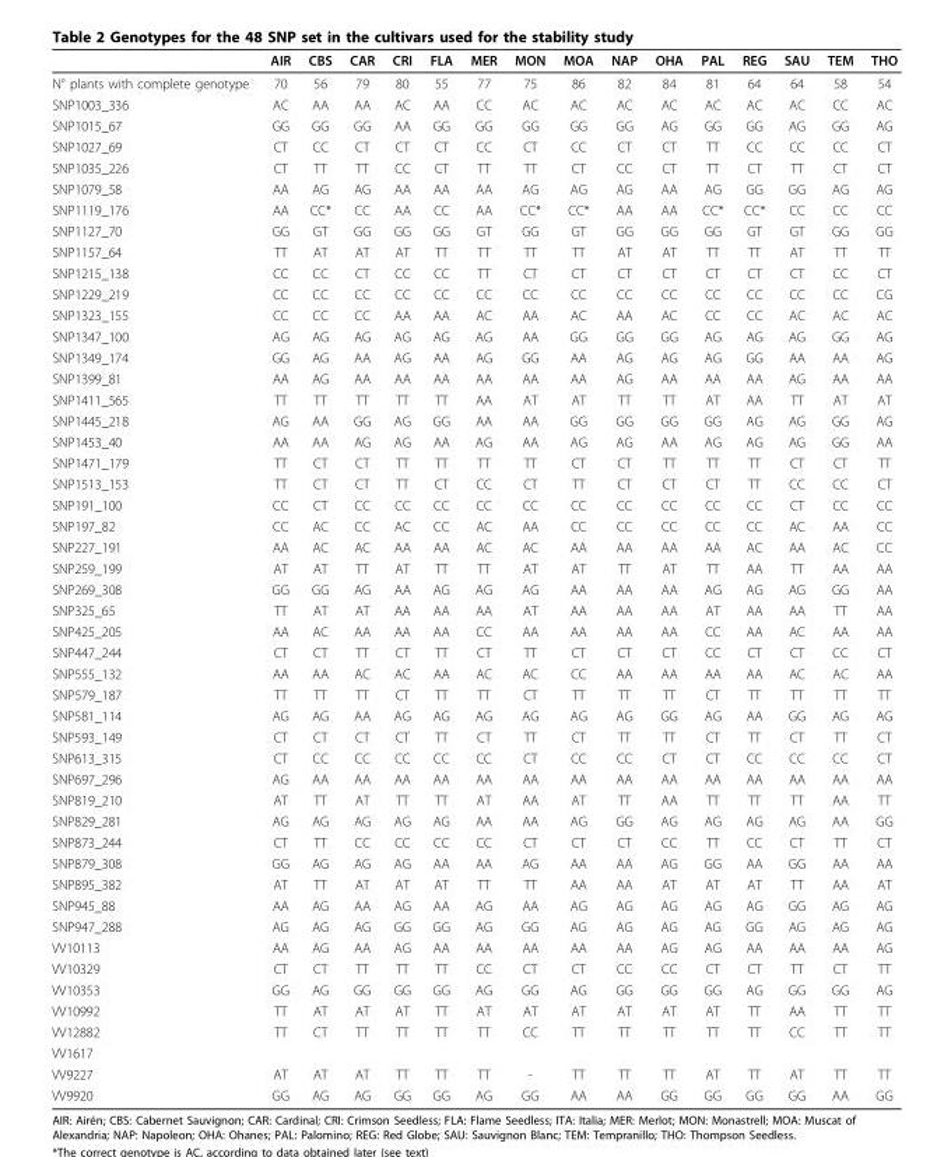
<table><thead><tr><td></td><td>AIR</td><td>CBS</td><td>CAR</td><td>CRI</td><td>FLA</td><td>MER</td><td>MON</td><td>MOA</td><td>NAP</td><td>OHA</td><td>PAL</td><td>REG</td><td>SAU</td><td>TEM</td><td>THO</td></tr></thead><tbody><tr><td>N° plants with complete genotype</td><td>70</td><td>56</td><td>79</td><td>80</td><td>55</td><td>77</td><td>75</td><td>86</td><td>82</td><td>84</td><td>81</td><td>64</td><td>64</td><td>58</td><td>54</td></tr><tr><td>SNP1003_336</td><td>AC</td><td>AA</td><td>AA</td><td>AC</td><td>AA</td><td>CC</td><td>AC</td><td>AC</td><td>AC</td><td>AC</td><td>AC</td><td>AC</td><td>AC</td><td>CC</td><td>AC</td></tr><tr><td>SNP1015_67</td><td>GG</td><td>GG</td><td>GG</td><td>AA</td><td>GG</td><td>GG</td><td>GG</td><td>GG</td><td>GG</td><td>AG</td><td>GG</td><td>GG</td><td>AG</td><td>GG</td><td>AG</td></tr><tr><td>SNP1027_69</td><td>CT</td><td>CC</td><td>CT</td><td>CT</td><td>CT</td><td>CC</td><td>CT</td><td>CC</td><td>CT</td><td>CT</td><td>TT</td><td>CC</td><td>CC</td><td>CC</td><td>CT</td></tr><tr><td>SNP1035_226</td><td>CT</td><td>TT</td><td>TT</td><td>CC</td><td>CT</td><td>TT</td><td>TT</td><td>CT</td><td>CC</td><td>CT</td><td>TT</td><td>CT</td><td>TT</td><td>CT</td><td>CT</td></tr><tr><td>SNP1079_58</td><td>AA</td><td>AG</td><td>AG</td><td>AA</td><td>AA</td><td>AA</td><td>AG</td><td>AG</td><td>AG</td><td>AA</td><td>AG</td><td>GG</td><td>GG</td><td>AG</td><td>AG</td></tr><tr><td>SNP1119_176</td><td>AA</td><td>CC*</td><td>CC</td><td>AA</td><td>CC</td><td>AA</td><td>CC*</td><td>CC*</td><td>AA</td><td>AA</td><td>CC*</td><td>CC*</td><td>CC</td><td>CC</td><td>CC</td></tr><tr><td>SNP1127_70</td><td>GG</td><td>GT</td><td>GG</td><td>GG</td><td>GG</td><td>GT</td><td>GG</td><td>GT</td><td>GG</td><td>GG</td><td>GG</td><td>GT</td><td>GT</td><td>GG</td><td>GG</td></tr><tr><td>SNP1157_64</td><td>TT</td><td>AT</td><td>AT</td><td>AT</td><td>TT</td><td>TT</td><td>TT</td><td>TT</td><td>AT</td><td>AT</td><td>TT</td><td>TT</td><td>AT</td><td>TT</td><td>TT</td></tr><tr><td>SNP1215_138</td><td>CC</td><td>CC</td><td>CT</td><td>CC</td><td>CC</td><td>TT</td><td>CT</td><td>CT</td><td>CT</td><td>CT</td><td>CT</td><td>CT</td><td>CT</td><td>CC</td><td>CT</td></tr><tr><td>SNP1229_219</td><td>CC</td><td>CC</td><td>CC</td><td>CC</td><td>CC</td><td>CC</td><td>CC</td><td>CC</td><td>CC</td><td>CC</td><td>CC</td><td>CC</td><td>CC</td><td>CC</td><td>CG</td></tr><tr><td>SNP1323_155</td><td>CC</td><td>CC</td><td>CC</td><td>AA</td><td>AA</td><td>AC</td><td>AA</td><td>AC</td><td>AA</td><td>AC</td><td>CC</td><td>CC</td><td>AC</td><td>AC</td><td>AC</td></tr><tr><td>SNP1347_100</td><td>AG</td><td>AG</td><td>AG</td><td>AG</td><td>AG</td><td>AG</td><td>AA</td><td>GG</td><td>GG</td><td>GG</td><td>AG</td><td>AG</td><td>AG</td><td>GG</td><td>AG</td></tr><tr><td>SNP1349_174</td><td>GG</td><td>AG</td><td>AA</td><td>AG</td><td>AA</td><td>AG</td><td>GG</td><td>AA</td><td>AG</td><td>AG</td><td>AG</td><td>GG</td><td>AA</td><td>AA</td><td>AG</td></tr><tr><td>SNP1399_81</td><td>AA</td><td>AG</td><td>AA</td><td>AA</td><td>AA</td><td>AA</td><td>AA</td><td>AA</td><td>AG</td><td>AA</td><td>AA</td><td>AA</td><td>AG</td><td>AA</td><td>AA</td></tr><tr><td>SNP1411_565</td><td>TT</td><td>TT</td><td>TT</td><td>TT</td><td>TT</td><td>AA</td><td>AT</td><td>AT</td><td>TT</td><td>TT</td><td>AT</td><td>AA</td><td>TT</td><td>AT</td><td>AT</td></tr><tr><td>SNP1445_218</td><td>AG</td><td>AA</td><td>GG</td><td>AG</td><td>GG</td><td>AA</td><td>AA</td><td>GG</td><td>GG</td><td>GG</td><td>GG</td><td>AG</td><td>AG</td><td>GG</td><td>AG</td></tr><tr><td>SNP1453_40</td><td>AA</td><td>AA</td><td>AG</td><td>AG</td><td>AA</td><td>AG</td><td>AA</td><td>AG</td><td>AG</td><td>AA</td><td>AG</td><td>AG</td><td>AG</td><td>GG</td><td>AA</td></tr><tr><td>SNP1471_179</td><td>TT</td><td>CT</td><td>CT</td><td>TT</td><td>TT</td><td>TT</td><td>TT</td><td>CT</td><td>CT</td><td>TT</td><td>TT</td><td>TT</td><td>CT</td><td>CT</td><td>TT</td></tr><tr><td>SNP1513_153</td><td>TT</td><td>CT</td><td>CT</td><td>TT</td><td>CT</td><td>CC</td><td>CT</td><td>TT</td><td>CT</td><td>CT</td><td>CT</td><td>TT</td><td>CC</td><td>CC</td><td>CT</td></tr><tr><td>SNP191_100</td><td>CC</td><td>CT</td><td>CC</td><td>CC</td><td>CC</td><td>CC</td><td>CC</td><td>CC</td><td>CC</td><td>CC</td><td>CC</td><td>CC</td><td>CT</td><td>CC</td><td>CC</td></tr><tr><td>SNP197_82</td><td>CC</td><td>AC</td><td>CC</td><td>AC</td><td>CC</td><td>AC</td><td>AA</td><td>CC</td><td>CC</td><td>CC</td><td>CC</td><td>CC</td><td>AC</td><td>AA</td><td>CC</td></tr><tr><td>SNP227_191</td><td>AA</td><td>AC</td><td>AC</td><td>AA</td><td>AA</td><td>AC</td><td>AC</td><td>AA</td><td>AA</td><td>AA</td><td>AA</td><td>AC</td><td>AA</td><td>AC</td><td>CC</td></tr><tr><td>SNP259_199</td><td>AT</td><td>AT</td><td>TT</td><td>AT</td><td>TT</td><td>TT</td><td>AT</td><td>AT</td><td>TT</td><td>AT</td><td>TT</td><td>AA</td><td>TT</td><td>AA</td><td>AA</td></tr><tr><td>SNP269_308</td><td>GG</td><td>GG</td><td>AG</td><td>AA</td><td>AG</td><td>AG</td><td>AG</td><td>AA</td><td>AA</td><td>AA</td><td>AG</td><td>AG</td><td>AG</td><td>GG</td><td>AA</td></tr><tr><td>SNP325_65</td><td>TT</td><td>AT</td><td>AT</td><td>AA</td><td>AA</td><td>AA</td><td>AT</td><td>AA</td><td>AA</td><td>AA</td><td>AT</td><td>AA</td><td>AA</td><td>TT</td><td>AA</td></tr><tr><td>SNP425_205</td><td>AA</td><td>AC</td><td>AA</td><td>AA</td><td>AA</td><td>CC</td><td>AA</td><td>AA</td><td>AA</td><td>AA</td><td>CC</td><td>AA</td><td>AC</td><td>AA</td><td>AA</td></tr><tr><td>SNP447_244</td><td>CT</td><td>CT</td><td>TT</td><td>CT</td><td>TT</td><td>CT</td><td>TT</td><td>CT</td><td>CT</td><td>CT</td><td>CC</td><td>CT</td><td>CT</td><td>CC</td><td>CT</td></tr><tr><td>SNP555_132</td><td>AA</td><td>AA</td><td>AC</td><td>AC</td><td>AA</td><td>AC</td><td>AC</td><td>CC</td><td>AA</td><td>AA</td><td>AA</td><td>AA</td><td>AC</td><td>AC</td><td>AA</td></tr><tr><td>SNP579_187</td><td>TT</td><td>TT</td><td>TT</td><td>CT</td><td>TT</td><td>TT</td><td>CT</td><td>TT</td><td>TT</td><td>TT</td><td>CT</td><td>TT</td><td>TT</td><td>TT</td><td>TT</td></tr><tr><td>SNP581_114</td><td>AG</td><td>AG</td><td>AA</td><td>AG</td><td>AG</td><td>AG</td><td>AG</td><td>AG</td><td>AG</td><td>GG</td><td>AG</td><td>AA</td><td>GG</td><td>AG</td><td>AG</td></tr><tr><td>SNP593_149</td><td>CT</td><td>CT</td><td>CT</td><td>CT</td><td>TT</td><td>CT</td><td>TT</td><td>CT</td><td>TT</td><td>TT</td><td>CT</td><td>TT</td><td>CT</td><td>TT</td><td>CT</td></tr><tr><td>SNP613_315</td><td>CT</td><td>CC</td><td>CC</td><td>CC</td><td>CC</td><td>CC</td><td>CT</td><td>CC</td><td>CC</td><td>CT</td><td>CT</td><td>CC</td><td>CC</td><td>CC</td><td>CT</td></tr><tr><td>SNP697_296</td><td>AG</td><td>AA</td><td>AA</td><td>AA</td><td>AA</td><td>AA</td><td>AA</td><td>AA</td><td>AA</td><td>AA</td><td>AA</td><td>AA</td><td>AA</td><td>AA</td><td>AA</td></tr><tr><td>SNP819_210</td><td>AT</td><td>TT</td><td>AT</td><td>TT</td><td>TT</td><td>AT</td><td>AA</td><td>AT</td><td>TT</td><td>AA</td><td>TT</td><td>TT</td><td>TT</td><td>AA</td><td>TT</td></tr><tr><td>SNP829_281</td><td>AG</td><td>AG</td><td>AG</td><td>AG</td><td>AG</td><td>AA</td><td>AA</td><td>AG</td><td>GG</td><td>AG</td><td>AG</td><td>AG</td><td>AG</td><td>AA</td><td>GG</td></tr><tr><td>SNP873_244</td><td>CT</td><td>TT</td><td>CC</td><td>CC</td><td>CC</td><td>CC</td><td>CT</td><td>CT</td><td>CT</td><td>CC</td><td>TT</td><td>CC</td><td>CT</td><td>TT</td><td>CT</td></tr><tr><td>SNP879_308</td><td>GG</td><td>AG</td><td>AG</td><td>AG</td><td>AA</td><td>AA</td><td>AG</td><td>AA</td><td>AA</td><td>AG</td><td>GG</td><td>AA</td><td>GG</td><td>AA</td><td>AA</td></tr><tr><td>SNP895_382</td><td>AT</td><td>TT</td><td>AT</td><td>AT</td><td>AT</td><td>TT</td><td>TT</td><td>AA</td><td>AA</td><td>AT</td><td>AT</td><td>AT</td><td>TT</td><td>AA</td><td>AT</td></tr><tr><td>SNP945_88</td><td>AA</td><td>AG</td><td>AA</td><td>AG</td><td>AA</td><td>AG</td><td>AA</td><td>AG</td><td>AG</td><td>AG</td><td>AG</td><td>AG</td><td>GG</td><td>AG</td><td>AG</td></tr><tr><td>SNP947_288</td><td>AG</td><td>AG</td><td>AG</td><td>GG</td><td>GG</td><td>AG</td><td>GG</td><td>AG</td><td>AG</td><td>AG</td><td>AG</td><td>GG</td><td>AG</td><td>AG</td><td>AG</td></tr><tr><td>VV10113</td><td>AA</td><td>AG</td><td>AA</td><td>AG</td><td>AA</td><td>AA</td><td>AA</td><td>AA</td><td>AA</td><td>AG</td><td>AG</td><td>AA</td><td>AA</td><td>AA</td><td>AG</td></tr><tr><td>VV10329</td><td>CT</td><td>CT</td><td>TT</td><td>TT</td><td>TT</td><td>CC</td><td>CT</td><td>CT</td><td>CC</td><td>CC</td><td>CT</td><td>CT</td><td>TT</td><td>CT</td><td>TT</td></tr><tr><td>VV10353</td><td>GG</td><td>AG</td><td>GG</td><td>GG</td><td>GG</td><td>AG</td><td>GG</td><td>AG</td><td>GG</td><td>GG</td><td>GG</td><td>AG</td><td>GG</td><td>GG</td><td>AG</td></tr><tr><td>VV10992</td><td>TT</td><td>AT</td><td>AT</td><td>AT</td><td>TT</td><td>AT</td><td>AT</td><td>AT</td><td>AT</td><td>AT</td><td>AT</td><td>TT</td><td>AA</td><td>TT</td><td>TT</td></tr><tr><td>VV12882</td><td>TT</td><td>CT</td><td>TT</td><td>TT</td><td>TT</td><td>TT</td><td>CC</td><td>TT</td><td>TT</td><td>TT</td><td>TT</td><td>TT</td><td>CC</td><td>TT</td><td>TT</td></tr><tr><td colspan="16">VV1617</td></tr><tr><td>VV9227</td><td>AT</td><td>AT</td><td>AT</td><td>TT</td><td>TT</td><td>TT</td><td>-</td><td>TT</td><td>TT</td><td>TT</td><td>AT</td><td>TT</td><td>AT</td><td>TT</td><td>TT</td></tr><tr><td>VV9920</td><td>GG</td><td>AG</td><td>AG</td><td>GG</td><td>GG</td><td>AG</td><td>GG</td><td>AA</td><td>AA</td><td>GG</td><td>GG</td><td>GG</td><td>GG</td><td>AA</td><td>GG</td></tr></tbody></table>